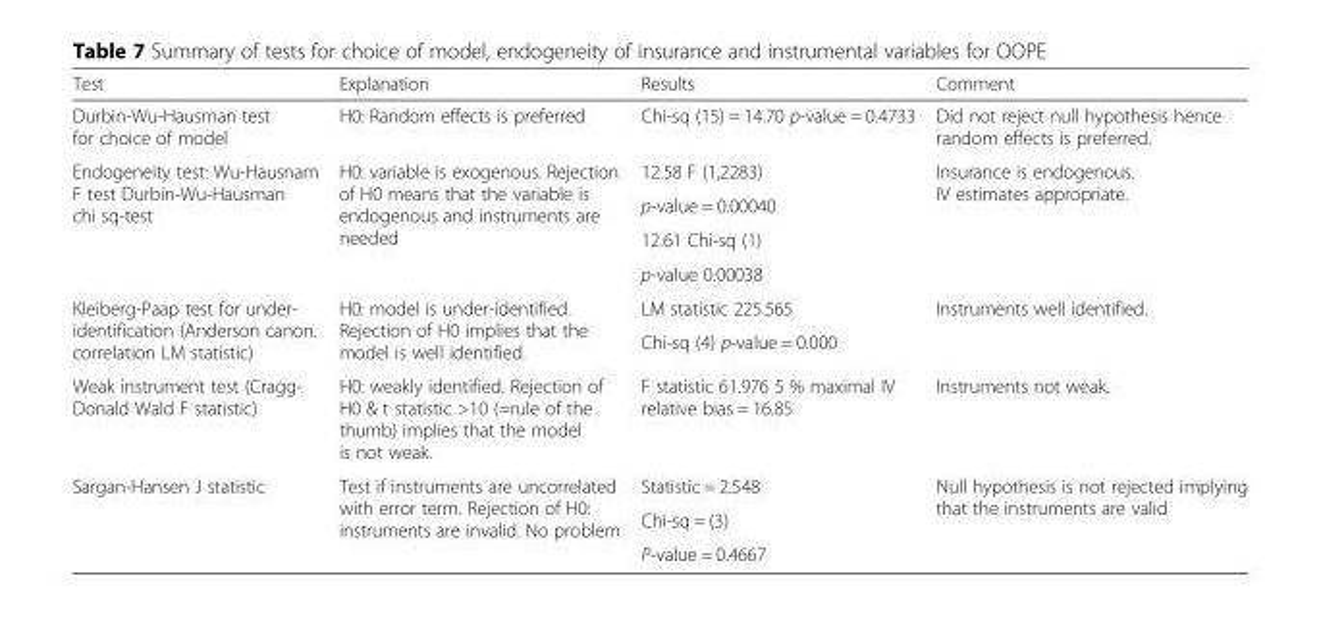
<table><thead><tr><td>Test</td><td>Explanation</td><td>Results</td><td>Comment</td></tr></thead><tbody><tr><td>Durbin-Wu-Hausman test for choice of model</td><td>H0: Random effects is preferred</td><td>Chi-sq (15) = 14.70 p-value = 0.4733</td><td>Did not reject null hypothesis hence random effects is preferred.</td></tr><tr><td rowspan="4">Endogeneity test: Wu-Hausnam F test Durbin-Wu-Hausman chi sq-test</td><td rowspan="4">H0: variable is exogenous. Rejection of H0 means that the variable is endogenous and instruments are needed</td><td>12.58 F (1,2283)</td><td rowspan="4">Insurance is endogenous. IV estimates appropriate.</td></tr><tr><td>p-value = 0.00040</td></tr><tr><td>12.61 Chi-sq (1)</td></tr><tr><td>p-value 0.00038</td></tr><tr><td rowspan="2">Kleiberg-Paap test for under- identification (Anderson canon. correlation LM statistic)</td><td rowspan="2">H0: model is under-identified. Rejection of H0 implies that the model is well identified.</td><td>LM statistic 225.565</td><td rowspan="2">Instruments well identified.</td></tr><tr><td>Chi-sq (4) p-value = 0.000</td></tr><tr><td>Weak instrument test (Cragg- Donald Wald F statistic)</td><td>H0: weakly identified. Rejection of H0 &amp; t statistic &gt;10 (=rule of the thumb) implies that the model is not weak.</td><td>F statistic 61.976 5 % maximal IV relative bias = 16.85</td><td>Instruments not weak.</td></tr><tr><td rowspan="3">Sargan-Hansen J statistic</td><td rowspan="3">Test if instruments are uncorrelated with error term. Rejection of H0: instruments are invalid. No problem</td><td>Statistic = 2.548</td><td rowspan="3">Null hypothesis is not rejected implying that the instruments are valid</td></tr><tr><td>Chi-sq = (3)</td></tr><tr><td>P-value = 0.4667</td></tr></tbody></table>